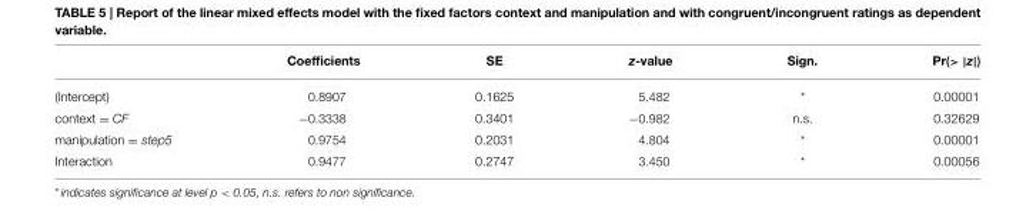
<table><thead><tr><td></td><td>Coefficients</td><td>SE</td><td>z-value</td><td>Sign.</td><td>Pr(&gt; |z|)</td></tr></thead><tbody><tr><td>(Intercept)</td><td>0.8907</td><td>0.1625</td><td>5.482</td><td>*</td><td>0.00001</td></tr><tr><td>context = CF</td><td>−0.3338</td><td>0.3401</td><td>−0.982</td><td>n.s.</td><td>0.32629</td></tr><tr><td>manipulation = step5</td><td>0.9754</td><td>0.2031</td><td>4.804</td><td>*</td><td>0.00001</td></tr><tr><td>Interaction</td><td>0.9477</td><td>0.2747</td><td>3.450</td><td>*</td><td>0.00056</td></tr></tbody></table>